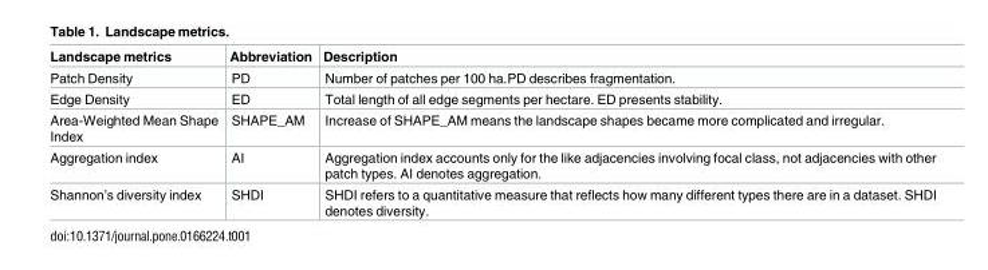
<table><thead><tr><td>Landscape metrics</td><td>Abbreviation</td><td>Description</td></tr></thead><tbody><tr><td>Patch Density</td><td>PD</td><td>Number of patches per 100 ha.PD describes fragmentation.</td></tr><tr><td>Edge Density</td><td>ED</td><td>Total length of all edge segments per hectare. ED presents stability.</td></tr><tr><td>Area-Weighted Mean Shape Index</td><td>SHAPE_AM</td><td>Increase of SHAPE_AM means the landscape shapes became more complicated and irregular.</td></tr><tr><td>Aggregation index</td><td>AI</td><td>Aggregation index accounts only for the like adjacencies involving focal class, not adjacencies with other patch types. AI denotes aggregation.</td></tr><tr><td>Shannon’s diversity index</td><td>SHDI</td><td>SHDI refers to a quantitative measure that reflects how many different types there are in a dataset. SHDI denotes diversity.</td></tr></tbody></table>